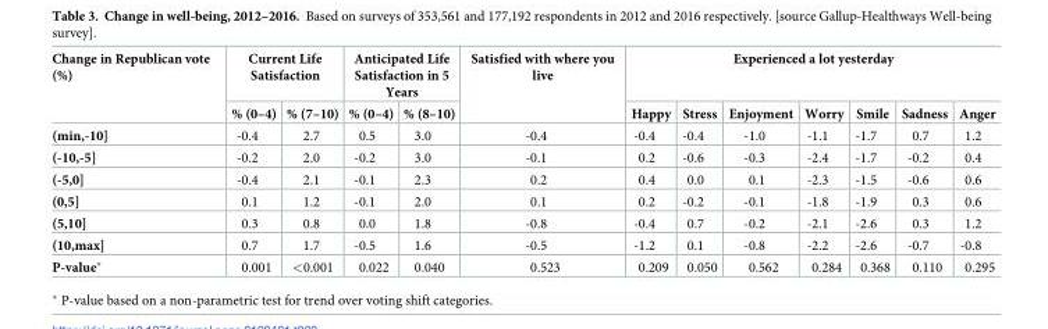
<table><thead><tr><td rowspan="2">Change in Republican vote (%)</td><td colspan="2">Current Life Satisfaction</td><td colspan="2">Anticipated Life Satisfaction in 5 Years</td><td rowspan="2">Satisfied with where you live</td><td colspan="7">Experienced a lot yesterday</td></tr><tr><td>% (0–4)</td><td>% (7–10)</td><td>% (0–4)</td><td>% (8–10)</td><td>Happy</td><td>Stress</td><td>Enjoyment</td><td>Worry</td><td>Smile</td><td>Sadness</td><td>Anger</td></tr></thead><tbody><tr><td>(min,-10]</td><td>-0.4</td><td>2.7</td><td>0.5</td><td>3.0</td><td>-0.4</td><td>-0.4</td><td>-0.4</td><td>-1.0</td><td>-1.1</td><td>-1.7</td><td>0.7</td><td>1.2</td></tr><tr><td>(-10,-5]</td><td>-0.2</td><td>2.0</td><td>-0.2</td><td>3.0</td><td>-0.1</td><td>0.2</td><td>-0.6</td><td>-0.3</td><td>-2.4</td><td>-1.7</td><td>-0.2</td><td>0.4</td></tr><tr><td>(-5,0]</td><td>-0.4</td><td>2.1</td><td>-0.1</td><td>2.3</td><td>0.2</td><td>0.4</td><td>0.0</td><td>0.1</td><td>-2.3</td><td>-1.5</td><td>-0.6</td><td>0.6</td></tr><tr><td>(0,5]</td><td>0.1</td><td>1.2</td><td>-0.1</td><td>2.0</td><td>0.1</td><td>0.2</td><td>-0.2</td><td>-0.1</td><td>-1.8</td><td>-1.9</td><td>0.3</td><td>0.6</td></tr><tr><td>(5,10]</td><td>0.3</td><td>0.8</td><td>0.0</td><td>1.8</td><td>-0.8</td><td>-0.4</td><td>0.7</td><td>-0.2</td><td>-2.1</td><td>-2.6</td><td>0.3</td><td>1.2</td></tr><tr><td>(10,max]</td><td>0.7</td><td>1.7</td><td>-0.5</td><td>1.6</td><td>-0.5</td><td>-1.2</td><td>0.1</td><td>-0.8</td><td>-2.2</td><td>-2.6</td><td>-0.7</td><td>-0.8</td></tr><tr><td>P-value*</td><td>0.001</td><td>&lt;0.001</td><td>0.022</td><td>0.040</td><td>0.523</td><td>0.209</td><td>0.050</td><td>0.562</td><td>0.284</td><td>0.368</td><td>0.110</td><td>0.295</td></tr></tbody></table>